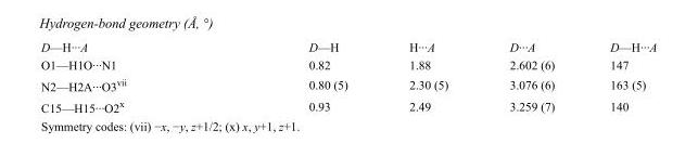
<table><tbody><tr><td>D—H···A</td><td>D—H</td><td>H···A</td><td>D···A</td><td>D—H···A</td></tr><tr><td>O1—H1O···N1</td><td>0.82</td><td>1.88</td><td>2.602 (6)</td><td>147</td></tr><tr><td>N2—H2A···O3<sup>vii</sup></td><td>0.80 (5)</td><td>2.30 (5)</td><td>3.076 (6)</td><td>163 (5)</td></tr><tr><td>C15—H15···O2<sup>x</sup></td><td>0.93</td><td>2.49</td><td>3.259 (7)</td><td>140</td></tr></tbody></table>